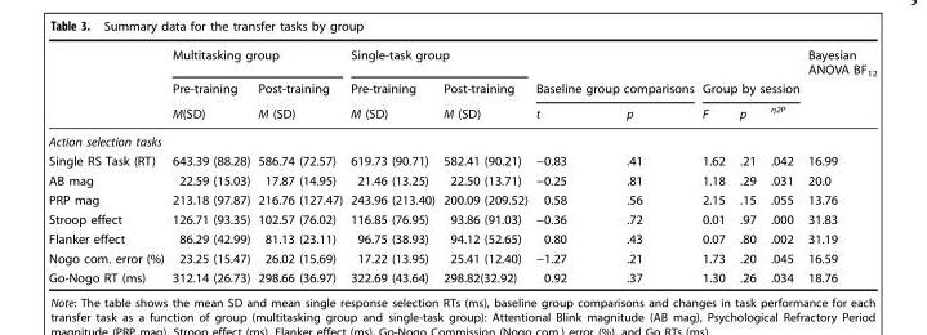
<table><thead><tr><td rowspan="3"></td><td colspan="2">Multitasking group</td><td colspan="2">Single-task group</td><td></td><td></td><td></td><td></td><td></td><td rowspan="3">Bayesian ANOVA BF<sub>12</sub></td></tr><tr><td rowspan="2">Pre-training M(SD)</td><td rowspan="2">Post-training M (SD)</td><td rowspan="2">Pre-training M (SD)</td><td rowspan="2">Post-training M (SD)</td><td colspan="2">Baseline group comparisons</td><td colspan="3">Group by session</td></tr><tr><td>t</td><td>p</td><td>F</td><td>p</td><td><sup>η2P</sup></td></tr></thead><tbody><tr><td colspan="11">Action selection tasks</td></tr><tr><td>Single RS Task (RT)</td><td>643.39 (88.28)</td><td>586.74 (72.57)</td><td>619.73 (90.71)</td><td>582.41 (90.21)</td><td>−0.83</td><td>.41</td><td>1.62</td><td>.21</td><td>.042</td><td>16.99</td></tr><tr><td>AB mag</td><td>22.59 (15.03)</td><td>17.87 (14.95)</td><td>21.46 (13.25)</td><td>22.50 (13.71)</td><td>−0.25</td><td>.81</td><td>1.18</td><td>.29</td><td>.031</td><td>20.0</td></tr><tr><td>PRP mag</td><td>213.18 (97.87)</td><td>216.76 (127.47)</td><td>243.96 (213.40)</td><td>200.09 (209.52)</td><td>0.58</td><td>.56</td><td>2.15</td><td>.15</td><td>.055</td><td>13.76</td></tr><tr><td>Stroop effect</td><td>126.71 (93.35)</td><td>102.57 (76.02)</td><td>116.85 (76.95)</td><td>93.86 (91.03)</td><td>−0.36</td><td>.72</td><td>0.01</td><td>.97</td><td>.000</td><td>31.83</td></tr><tr><td>Flanker effect</td><td>86.29 (42.99)</td><td>81.13 (23.11)</td><td>96.75 (38.93)</td><td>94.12 (52.65)</td><td>0.80</td><td>.43</td><td>0.07</td><td>.80</td><td>.002</td><td>31.19</td></tr><tr><td>Nogo com. error (%)</td><td>23.25 (15.47)</td><td>26.02 (15.69)</td><td>17.22 (13.95)</td><td>25.41 (12.40)</td><td>−1.27</td><td>.21</td><td>1.73</td><td>.20</td><td>.045</td><td>16.59</td></tr><tr><td>Go-Nogo RT (ms)</td><td>312.14 (26.73)</td><td>298.66 (36.97)</td><td>322.69 (43.64)</td><td>298.82(32.92)</td><td>0.92</td><td>.37</td><td>1.30</td><td>.26</td><td>.034</td><td>18.76</td></tr></tbody></table>